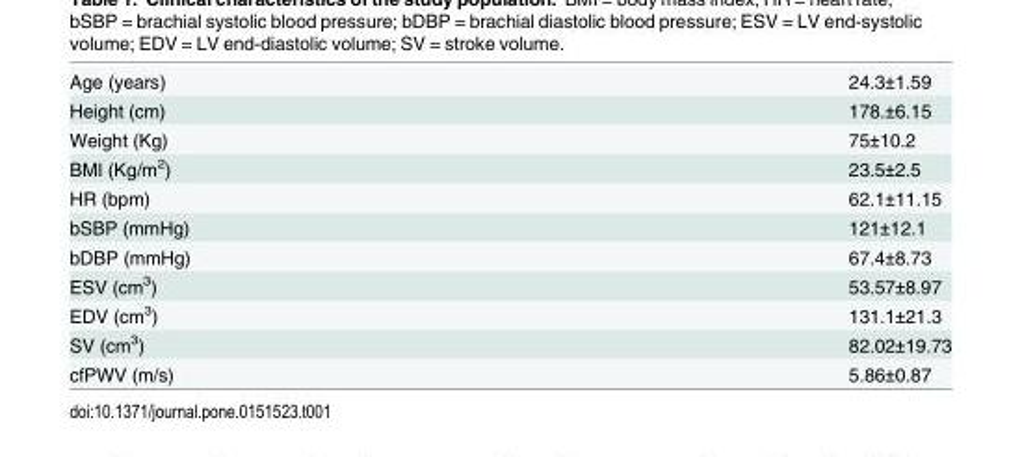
<table><tbody><tr><td>Age (years)</td><td>24.3±1.59</td></tr><tr><td>Height (cm)</td><td>178.±6.15</td></tr><tr><td>Weight (Kg)</td><td>75±10.2</td></tr><tr><td>BMI (Kg/m<sup>2</sup>)</td><td>23.5±2.5</td></tr><tr><td>HR (bpm)</td><td>62.1±11.15</td></tr><tr><td>bSBP (mmHg)</td><td>121±12.1</td></tr><tr><td>bDBP (mmHg)</td><td>67.4±8.73</td></tr><tr><td>ESV (cm<sup>3</sup>)</td><td>53.57±8.97</td></tr><tr><td>EDV (cm<sup>3</sup>)</td><td>131.1±21.3</td></tr><tr><td>SV (cm<sup>3</sup>)</td><td>82.02±19.73</td></tr><tr><td>cfPWV (m/s)</td><td>5.86±0.87</td></tr></tbody></table>